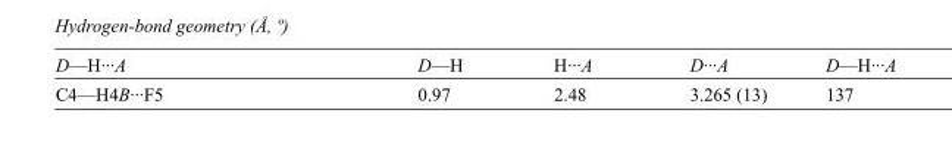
<table><tbody><tr><td>D—H···A</td><td>D—H</td><td>H···A</td><td>D···A</td><td>D—H···A</td></tr><tr><td>C4—H4B···F5</td><td>0.97</td><td>2.48</td><td>3.265 (13)</td><td>137</td></tr></tbody></table>